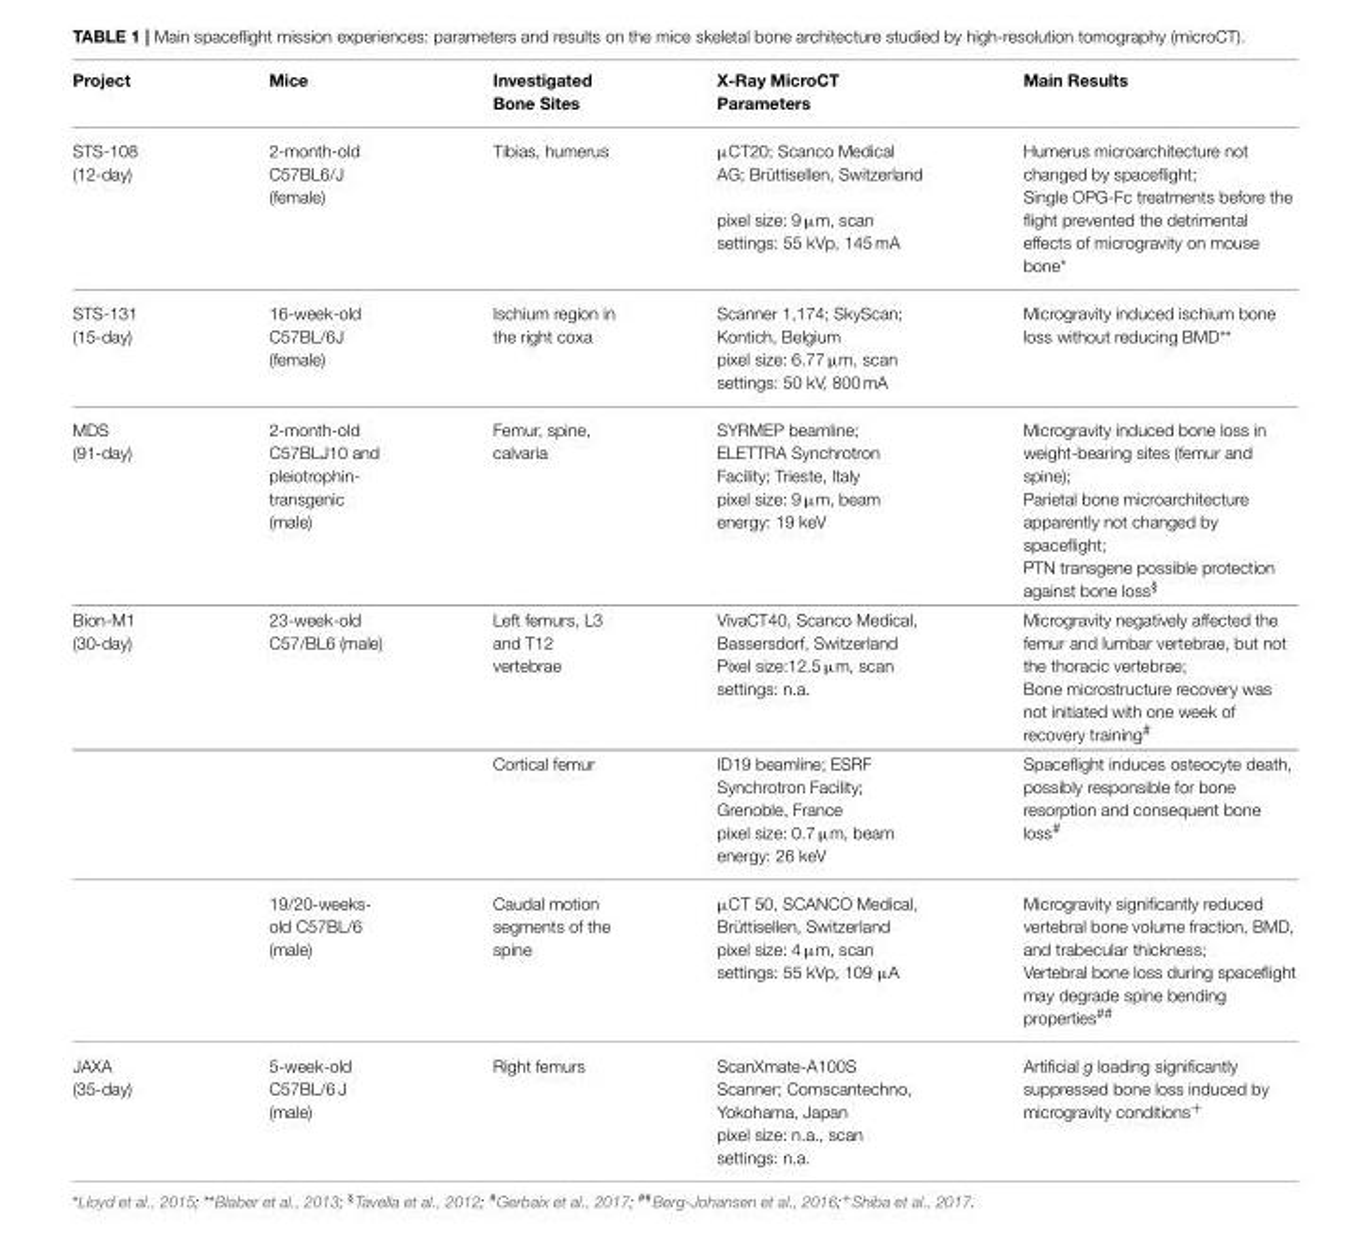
<table><thead><tr><td>Project</td><td>Mice</td><td>Investigated Bone Sites</td><td>X-Ray MicroCT Parameters</td><td>Main Results</td></tr></thead><tbody><tr><td>STS-108 (12-day)</td><td>2-month-old C57BL6/J (female)</td><td>Tibias, humerus</td><td>µCT20; Scanco Medical AG; Brüttisellen, Switzerland pixel size: 9 µm, scan settings: 55 kVp, 145 mA</td><td>Humerus microarchitecture not changed by spaceflight; Single OPG-Fc treatments before the flight prevented the detrimental effects of microgravity on mouse bone*</td></tr><tr><td>STS-131 (15-day)</td><td>16-week-old C57BL/6J (female)</td><td>Ischium region in the right coxa</td><td>Scanner 1,174; SkyScan; Kontich, Belgium pixel size: 6.77 µm, scan settings: 50 kV, 800 mA</td><td>Microgravity induced ischium bone loss without reducing BMD**</td></tr><tr><td>MDS (91-day)</td><td>2-month-old C57BLJ10 and pleiotrophin- transgenic (male)</td><td>Femur, spine, calvaria</td><td>SYRMEP beamline; ELETTRA Synchrotron Facility; Trieste, Italy pixel size: 9 µm, beam energy: 19 keV</td><td>Microgravity induced bone loss in weight-bearing sites (femur and spine); Parietal bone microarchitecture apparently not changed by spaceflight; PTN transgene possible protection against bone loss<sup>§</sup></td></tr><tr><td rowspan="3">Bion-M1 (30-day)</td><td>23-week-old C57/BL6 (male)</td><td>Left femurs, L3 and T12 vertebrae</td><td>VivaCT40, Scanco Medical, Bassersdorf, Switzerland Pixel size:12.5 µm, scan settings: n.a.</td><td>Microgravity negatively affected the femur and lumbar vertebrae, but not the thoracic vertebrae; Bone microstructure recovery was not initiated with one week of recovery training<sup>#</sup></td></tr><tr><td></td><td>Cortical femur</td><td>ID19 beamline; ESRF Synchrotron Facility; Grenoble, France pixel size: 0.7 µm, beam energy: 26 keV</td><td>Spaceflight induces osteocyte death, possibly responsible for bone resorption and consequent bone loss<sup>#</sup></td></tr><tr><td>19/20-weeks- old C57BL/6 (male)</td><td>Caudal motion segments of the spine</td><td>µCT 50, SCANCO Medical, Brüttisellen, Switzerland pixel size: 4 µm, scan settings: 55 kVp, 109 µA</td><td>Microgravity significantly reduced vertebral bone volume fraction, BMD, and trabecular thickness; Vertebral bone loss during spaceflight may degrade spine bending properties<sup>##</sup></td></tr><tr><td>JAXA (35-day)</td><td>5-week-old C57BL/6 J (male)</td><td>Right femurs</td><td>ScanXmate-A100S Scanner; Comscantechno, Yokohama, Japan pixel size: n.a., scan settings: n.a.</td><td>Artificial g loading significantly suppressed bone loss induced by microgravity conditions<sup>+</sup></td></tr></tbody></table>